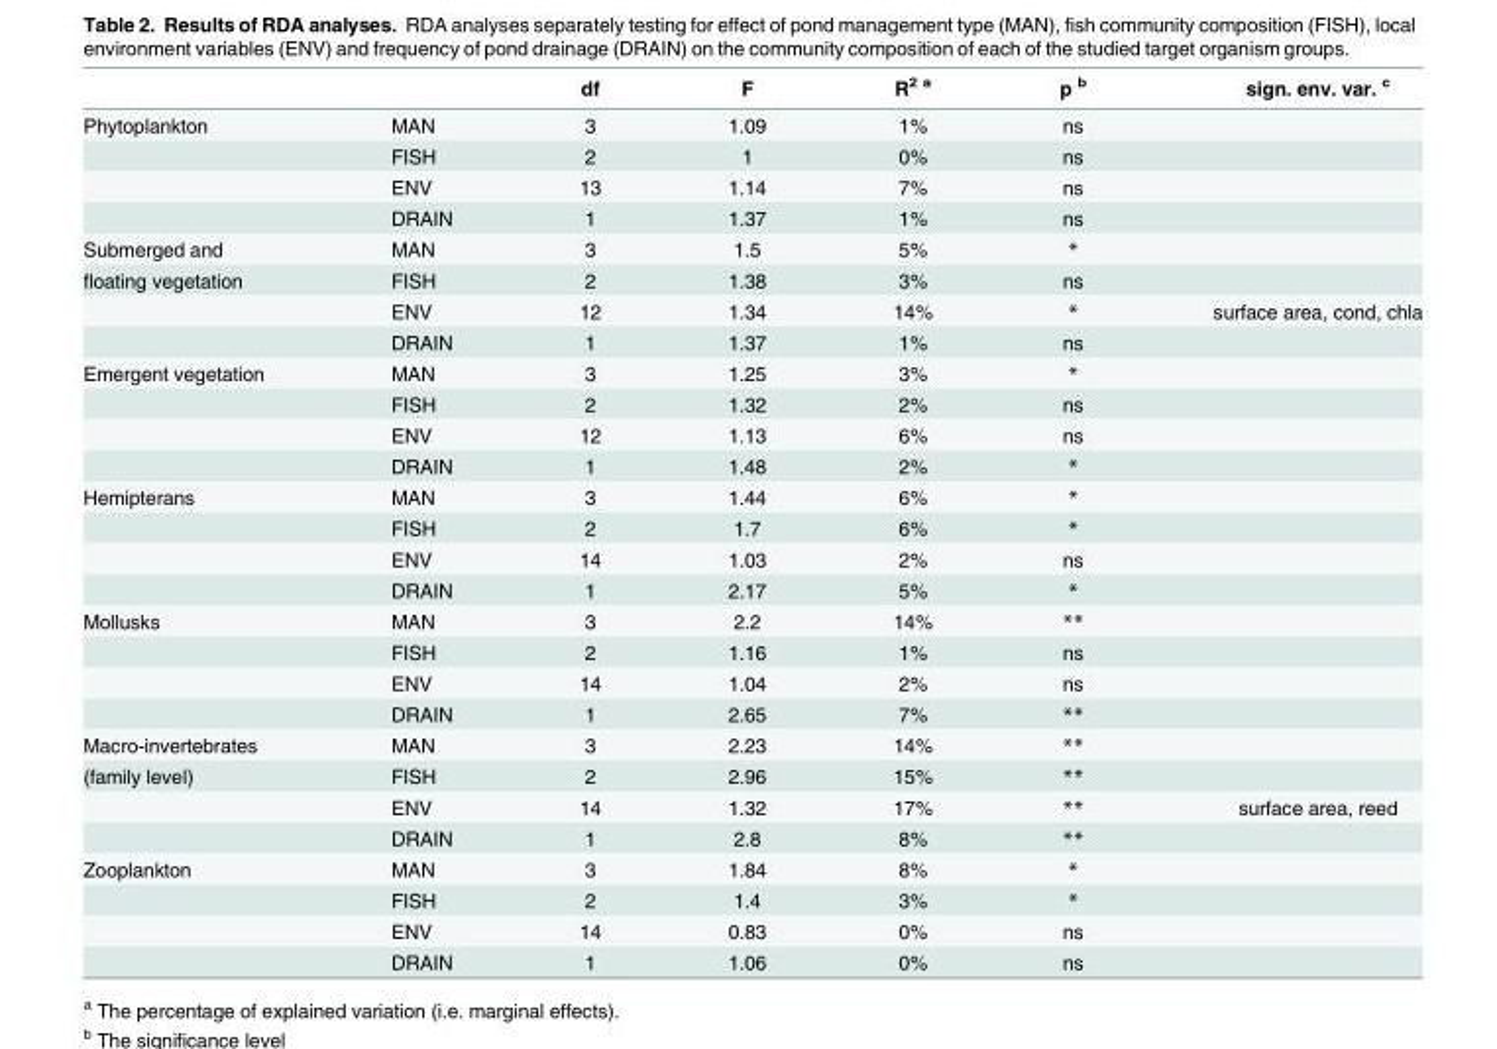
<table><thead><tr><td></td><td></td><td>df</td><td>F</td><td>R<sup>2 a</sup></td><td>p <sup>b</sup></td><td>sign. env. var. <sup>c</sup></td></tr></thead><tbody><tr><td rowspan="4">Phytoplankton</td><td>MAN</td><td>3</td><td>1.09</td><td>1%</td><td>ns</td><td></td></tr><tr><td>FISH</td><td>2</td><td>1</td><td>0%</td><td>ns</td><td></td></tr><tr><td>ENV</td><td>13</td><td>1.14</td><td>7%</td><td>ns</td><td></td></tr><tr><td>DRAIN</td><td>1</td><td>1.37</td><td>1%</td><td>ns</td><td></td></tr><tr><td>Submerged and</td><td>MAN</td><td>3</td><td>1.5</td><td>5%</td><td>*</td><td></td></tr><tr><td rowspan="3">floating vegetation</td><td>FISH</td><td>2</td><td>1.38</td><td>3%</td><td>ns</td><td></td></tr><tr><td>ENV</td><td>12</td><td>1.34</td><td>14%</td><td>*</td><td>surface area, cond, chla</td></tr><tr><td>DRAIN</td><td>1</td><td>1.37</td><td>1%</td><td>ns</td><td></td></tr><tr><td rowspan="4">Emergent vegetation</td><td>MAN</td><td>3</td><td>1.25</td><td>3%</td><td>*</td><td></td></tr><tr><td>FISH</td><td>2</td><td>1.32</td><td>2%</td><td>ns</td><td></td></tr><tr><td>ENV</td><td>12</td><td>1.13</td><td>6%</td><td>ns</td><td></td></tr><tr><td>DRAIN</td><td>1</td><td>1.48</td><td>2%</td><td>*</td><td></td></tr><tr><td rowspan="4">Hemipterans</td><td>MAN</td><td>3</td><td>1.44</td><td>6%</td><td>*</td><td></td></tr><tr><td>FISH</td><td>2</td><td>1.7</td><td>6%</td><td>*</td><td></td></tr><tr><td>ENV</td><td>14</td><td>1.03</td><td>2%</td><td>ns</td><td></td></tr><tr><td>DRAIN</td><td>1</td><td>2.17</td><td>5%</td><td>*</td><td></td></tr><tr><td rowspan="4">Mollusks</td><td>MAN</td><td>3</td><td>2.2</td><td>14%</td><td>**</td><td></td></tr><tr><td>FISH</td><td>2</td><td>1.16</td><td>1%</td><td>ns</td><td></td></tr><tr><td>ENV</td><td>14</td><td>1.04</td><td>2%</td><td>ns</td><td></td></tr><tr><td>DRAIN</td><td>1</td><td>2.65</td><td>7%</td><td>**</td><td></td></tr><tr><td>Macro-invertebrates</td><td>MAN</td><td>3</td><td>2.23</td><td>14%</td><td>**</td><td></td></tr><tr><td rowspan="3">(family level)</td><td>FISH</td><td>2</td><td>2.96</td><td>15%</td><td>**</td><td></td></tr><tr><td>ENV</td><td>14</td><td>1.32</td><td>17%</td><td>**</td><td>surface area, reed</td></tr><tr><td>DRAIN</td><td>1</td><td>2.8</td><td>8%</td><td>**</td><td></td></tr><tr><td rowspan="4">Zooplankton</td><td>MAN</td><td>3</td><td>1.84</td><td>8%</td><td>*</td><td></td></tr><tr><td>FISH</td><td>2</td><td>1.4</td><td>3%</td><td>*</td><td></td></tr><tr><td>ENV</td><td>14</td><td>0.83</td><td>0%</td><td>ns</td><td></td></tr><tr><td>DRAIN</td><td>1</td><td>1.06</td><td>0%</td><td>ns</td><td></td></tr></tbody></table>